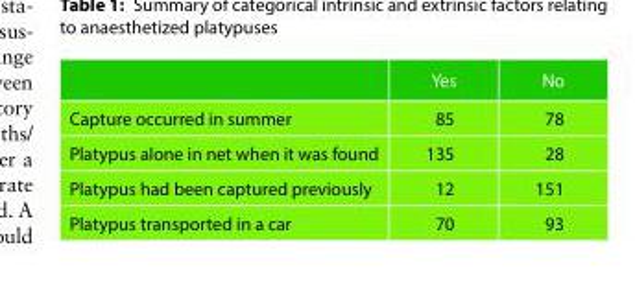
<table><thead><tr><td></td><td>Yes</td><td>No</td></tr></thead><tbody><tr><td>Capture occurred in summer</td><td>85</td><td>78</td></tr><tr><td>Platypus alone in net when it was found</td><td>135</td><td>28</td></tr><tr><td>Platypus had been captured previously</td><td>12</td><td>151</td></tr><tr><td>Platypus transported in a car</td><td>70</td><td>93</td></tr></tbody></table>